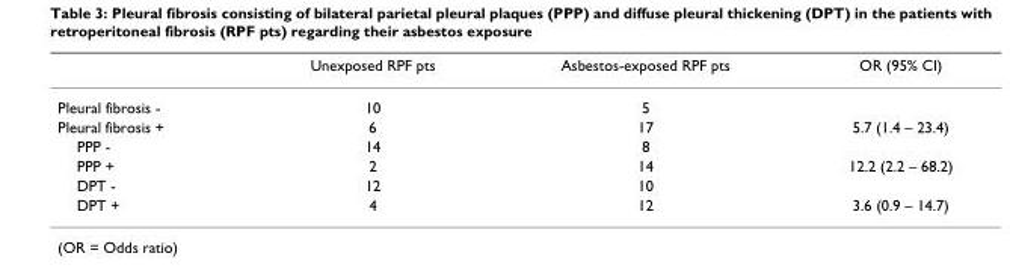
<table><thead><tr><td></td><td>Unexposed RPF pts</td><td>Asbestos-exposed RPF pts</td><td>OR (95% CI)</td></tr></thead><tbody><tr><td>Pleural fibrosis -</td><td>10</td><td>5</td><td></td></tr><tr><td>Pleural fibrosis +</td><td>6</td><td>17</td><td>5.7 (1.4 – 23.4)</td></tr><tr><td>PPP -</td><td>14</td><td>8</td><td></td></tr><tr><td>PPP +</td><td>2</td><td>14</td><td>12.2 (2.2 – 68.2)</td></tr><tr><td>DPT -</td><td>12</td><td>10</td><td></td></tr><tr><td>DPT +</td><td>4</td><td>12</td><td>3.6 (0.9 – 14.7)</td></tr></tbody></table>